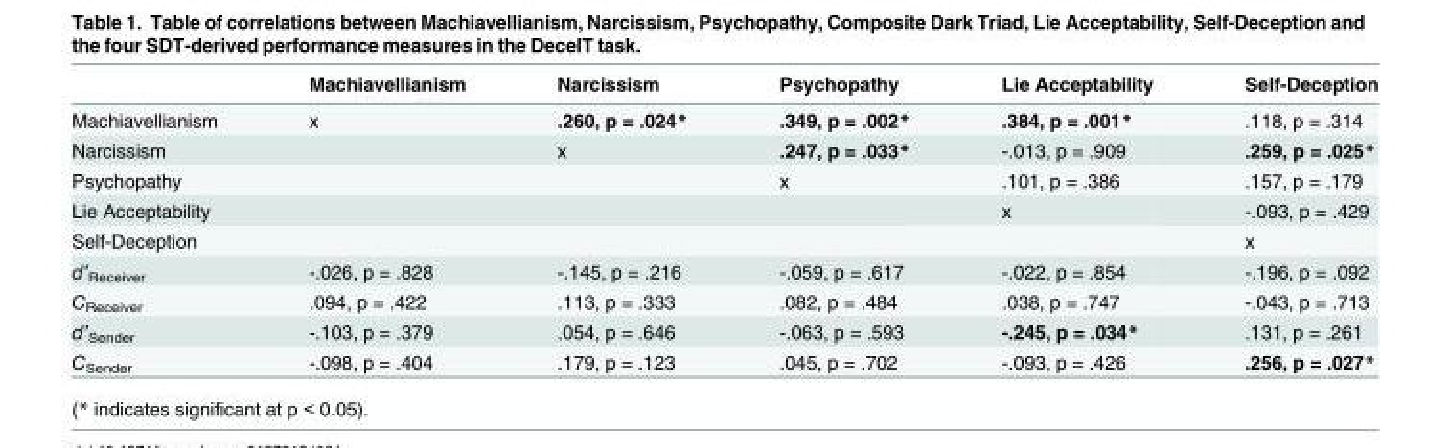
<table><thead><tr><td></td><td>Machiavellianism</td><td>Narcissism</td><td>Psychopathy</td><td>Lie Acceptability</td><td>Self-Deception</td></tr></thead><tbody><tr><td>Machiavellianism</td><td>x</td><td>.260, p = .024*</td><td>.349, p = .002*</td><td>.384, p = .001*</td><td>.118, p = .314</td></tr><tr><td>Narcissism</td><td></td><td>x</td><td>.247, p = .033*</td><td>-.013, p = .909</td><td>.259, p = .025*</td></tr><tr><td>Psychopathy</td><td></td><td></td><td>x</td><td>.101, p = .386</td><td>.157, p = .179</td></tr><tr><td>Lie Acceptability</td><td></td><td></td><td></td><td>x</td><td>-.093, p = .429</td></tr><tr><td>Self-Deception</td><td></td><td></td><td></td><td></td><td>x</td></tr><tr><td>d’<sub>Receiver</sub></td><td>-.026, p = .828</td><td>-.145, p = .216</td><td>-.059, p = .617</td><td>-.022, p = .854</td><td>-.196, p = .092</td></tr><tr><td>C<sub>Receiver</sub></td><td>.094, p = .422</td><td>.113, p = .333</td><td>.082, p = .484</td><td>.038, p = .747</td><td>-.043, p = .713</td></tr><tr><td>d’<sub>Sender</sub></td><td>-.103, p = .379</td><td>.054, p = .646</td><td>-.063, p = .593</td><td>-.245, p = .034*</td><td>.131, p = .261</td></tr><tr><td>C<sub>Sender</sub></td><td>-.098, p = .404</td><td>.179, p = .123</td><td>.045, p = .702</td><td>-.093, p = .426</td><td>.256, p = .027*</td></tr></tbody></table>